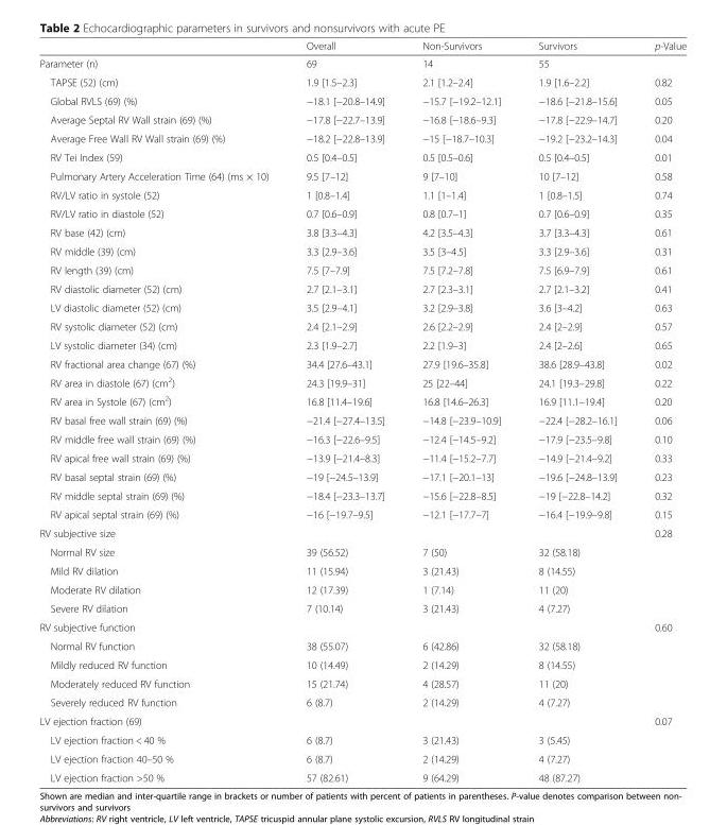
<table><thead><tr><td></td><td>Overall</td><td>Non-Survivors</td><td>Survivors</td><td>p-Value</td></tr></thead><tbody><tr><td>Parameter (n)</td><td>69</td><td>14</td><td>55</td><td></td></tr><tr><td>TAPSE (52) (cm)</td><td>1.9 [1.5–2.3]</td><td>2.1 [1.2–2.4]</td><td>1.9 [1.6–2.2]</td><td>0.82</td></tr><tr><td>Global RVLS (69) (%)</td><td>−18.1 [−20.8–14.9]</td><td>−15.7 [−19.2–12.1]</td><td>−18.6 [−21.8–15.6]</td><td>0.05</td></tr><tr><td>Average Septal RV Wall strain (69) (%)</td><td>−17.8 [−22.7–13.9]</td><td>−16.8 [−18.6–9.3]</td><td>−17.8 [−22.9–14.7]</td><td>0.20</td></tr><tr><td>Average Free Wall RV Wall strain (69) (%)</td><td>−18.2 [−22.8–13.9]</td><td>−15 [−18.7–10.3]</td><td>−19.2 [−23.2–14.3]</td><td>0.04</td></tr><tr><td>RV Tei Index (59)</td><td>0.5 [0.4–0.5]</td><td>0.5 [0.5–0.6]</td><td>0.5 [0.4–0.5]</td><td>0.01</td></tr><tr><td>Pulmonary Artery Acceleration Time (64) (ms × 10)</td><td>9.5 [7–12]</td><td>9 [7–10]</td><td>10 [7–12]</td><td>0.58</td></tr><tr><td>RV/LV ratio in systole (52)</td><td>1 [0.8–1.4]</td><td>1.1 [1–1.4]</td><td>1 [0.8–1.5]</td><td>0.74</td></tr><tr><td>RV/LV ratio in diastole (52)</td><td>0.7 [0.6–0.9]</td><td>0.8 [0.7–1]</td><td>0.7 [0.6–0.9]</td><td>0.35</td></tr><tr><td>RV base (42) (cm)</td><td>3.8 [3.3–4.3]</td><td>4.2 [3.5–4.3]</td><td>3.7 [3.3–4.3]</td><td>0.61</td></tr><tr><td>RV middle (39) (cm)</td><td>3.3 [2.9–3.6]</td><td>3.5 [3–4.5]</td><td>3.3 [2.9–3.6]</td><td>0.31</td></tr><tr><td>RV length (39) (cm)</td><td>7.5 [7–7.9]</td><td>7.5 [7.2–7.8]</td><td>7.5 [6.9–7.9]</td><td>0.61</td></tr><tr><td>RV diastolic diameter (52) (cm)</td><td>2.7 [2.1–3.1]</td><td>2.7 [2.3–3.1]</td><td>2.7 [2.1–3.2]</td><td>0.41</td></tr><tr><td>LV diastolic diameter (52) (cm)</td><td>3.5 [2.9–4.1]</td><td>3.2 [2.9–3.8]</td><td>3.6 [3–4.2]</td><td>0.63</td></tr><tr><td>RV systolic diameter (52) (cm)</td><td>2.4 [2.1–2.9]</td><td>2.6 [2.2–2.9]</td><td>2.4 [2–2.9]</td><td>0.57</td></tr><tr><td>LV systolic diameter (34) (cm)</td><td>2.3 [1.9–2.7]</td><td>2.2 [1.9–3]</td><td>2.4 [2–2.6]</td><td>0.65</td></tr><tr><td>RV fractional area change (67) (%)</td><td>34.4 [27.6–43.1]</td><td>27.9 [19.6–35.8]</td><td>38.6 [28.9–43.8]</td><td>0.02</td></tr><tr><td>RV area in diastole (67) (cm<sup>2</sup>)</td><td>24.3 [19.9–31]</td><td>25 [22–44]</td><td>24.1 [19.3–29.8]</td><td>0.22</td></tr><tr><td>RV area in Systole (67) (cm<sup>2</sup>)</td><td>16.8 [11.4–19.6]</td><td>16.8 [14.6–26.3]</td><td>16.9 [11.1–19.4]</td><td>0.20</td></tr><tr><td>RV basal free wall strain (69) (%)</td><td>−21.4 [−27.4–13.5]</td><td>−14.8 [−23.9–10.9]</td><td>−22.4 [−28.2–16.1]</td><td>0.06</td></tr><tr><td>RV middle free wall strain (69) (%)</td><td>−16.3 [−22.6–9.5]</td><td>−12.4 [−14.5–9.2]</td><td>−17.9 [−23.5–9.8]</td><td>0.10</td></tr><tr><td>RV apical free wall strain (69) (%)</td><td>−13.9 [−21.4–8.3]</td><td>−11.4 [−15.2–7.7]</td><td>−14.9 [−21.4–9.2]</td><td>0.33</td></tr><tr><td>RV basal septal strain (69) (%)</td><td>−19 [−24.5–13.9]</td><td>−17.1 [−20.1–13]</td><td>−19.6 [−24.8–13.9]</td><td>0.23</td></tr><tr><td>RV middle septal strain (69) (%)</td><td>−18.4 [−23.3–13.7]</td><td>−15.6 [−22.8–8.5]</td><td>−19 [−22.8–14.2]</td><td>0.32</td></tr><tr><td>RV apical septal strain (69) (%)</td><td>−16 [−19.7–9.5]</td><td>−12.1 [−17.7–7]</td><td>−16.4 [−19.9–9.8]</td><td>0.15</td></tr><tr><td colspan="4">RV subjective size</td><td>0.28</td></tr><tr><td>Normal RV size</td><td>39 (56.52)</td><td>7 (50)</td><td>32 (58.18)</td><td></td></tr><tr><td>Mild RV dilation</td><td>11 (15.94)</td><td>3 (21.43)</td><td>8 (14.55)</td><td></td></tr><tr><td>Moderate RV dilation</td><td>12 (17.39)</td><td>1 (7.14)</td><td>11 (20)</td><td></td></tr><tr><td>Severe RV dilation</td><td>7 (10.14)</td><td>3 (21.43)</td><td>4 (7.27)</td><td></td></tr><tr><td colspan="4">RV subjective function</td><td>0.60</td></tr><tr><td>Normal RV function</td><td>38 (55.07)</td><td>6 (42.86)</td><td>32 (58.18)</td><td></td></tr><tr><td>Mildly reduced RV function</td><td>10 (14.49)</td><td>2 (14.29)</td><td>8 (14.55)</td><td></td></tr><tr><td>Moderately reduced RV function</td><td>15 (21.74)</td><td>4 (28.57)</td><td>11 (20)</td><td></td></tr><tr><td>Severely reduced RV function</td><td>6 (8.7)</td><td>2 (14.29)</td><td>4 (7.27)</td><td></td></tr><tr><td colspan="4">LV ejection fraction (69)</td><td>0.07</td></tr><tr><td>LV ejection fraction &lt; 40 %</td><td>6 (8.7)</td><td>3 (21.43)</td><td>3 (5.45)</td><td></td></tr><tr><td>LV ejection fraction 40–50 %</td><td>6 (8.7)</td><td>2 (14.29)</td><td>4 (7.27)</td><td></td></tr><tr><td>LV ejection fraction &gt;50 %</td><td>57 (82.61)</td><td>9 (64.29)</td><td>48 (87.27)</td><td></td></tr></tbody></table>